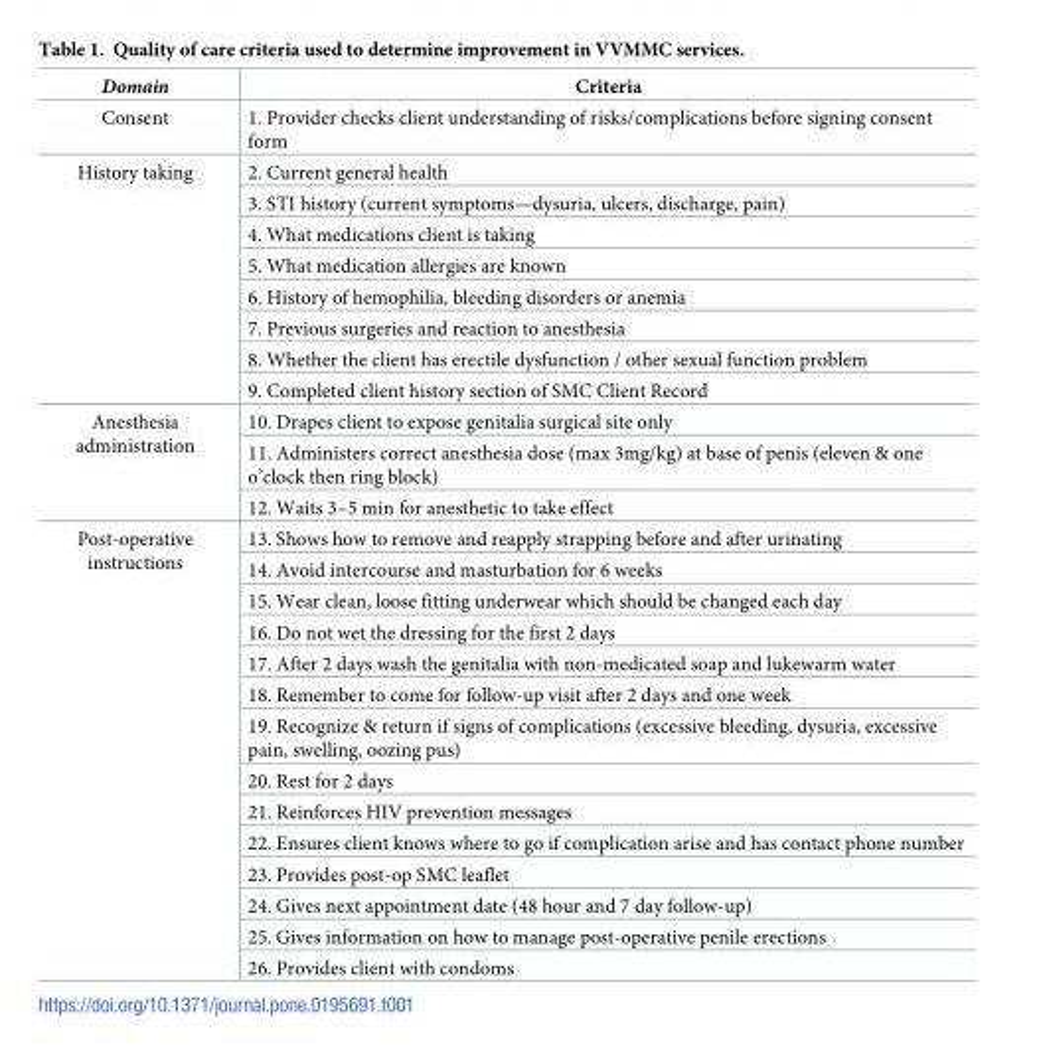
<table><thead><tr><td>Domain</td><td>Criteria</td></tr></thead><tbody><tr><td>Consent</td><td>1. Provider checks client understanding of risks/complications before signing consent form</td></tr><tr><td rowspan="8">History taking</td><td>2. Current general health</td></tr><tr><td>3. STI history (current symptoms—dysuria, ulcers, discharge, pain)</td></tr><tr><td>4. What medications client is taking</td></tr><tr><td>5. What medication allergies are known</td></tr><tr><td>6. History of hemophilia, bleeding disorders or anemia</td></tr><tr><td>7. Previous surgeries and reaction to anesthesia</td></tr><tr><td>8. Whether the client has erectile dysfunction / other sexual function problem</td></tr><tr><td>9. Completed client history section of SMC Client Record</td></tr><tr><td rowspan="3">Anesthesia administration</td><td>10. Drapes client to expose genitalia surgical site only</td></tr><tr><td>11. Administers correct anesthesia dose (max 3mg/kg) at base of penis (eleven &amp; one o’clock then ring block)</td></tr><tr><td>12. Waits 3–5 min for anesthetic to take effect</td></tr><tr><td rowspan="14">Post-operative instructions</td><td>13. Shows how to remove and reapply strapping before and after urinating</td></tr><tr><td>14. Avoid intercourse and masturbation for 6 weeks</td></tr><tr><td>15. Wear clean, loose fitting underwear which should be changed each day</td></tr><tr><td>16. Do not wet the dressing for the first 2 days</td></tr><tr><td>17. After 2 days wash the genitalia with non-medicated soap and lukewarm water</td></tr><tr><td>18. Remember to come for follow-up visit after 2 days and one week</td></tr><tr><td>19. Recognize &amp; return if signs of complications (excessive bleeding, dysuria, excessive pain, swelling, oozing pus)</td></tr><tr><td>20. Rest for 2 days</td></tr><tr><td>21. Reinforces HIV prevention messages</td></tr><tr><td>22. Ensures client knows where to go if complication arise and has contact phone number</td></tr><tr><td>23. Provides post-op SMC leaflet</td></tr><tr><td>24. Gives next appointment date (48 hour and 7 day follow-up)</td></tr><tr><td>25. Gives information on how to manage post-operative penile erections</td></tr><tr><td>26. Provides client with condoms</td></tr></tbody></table>